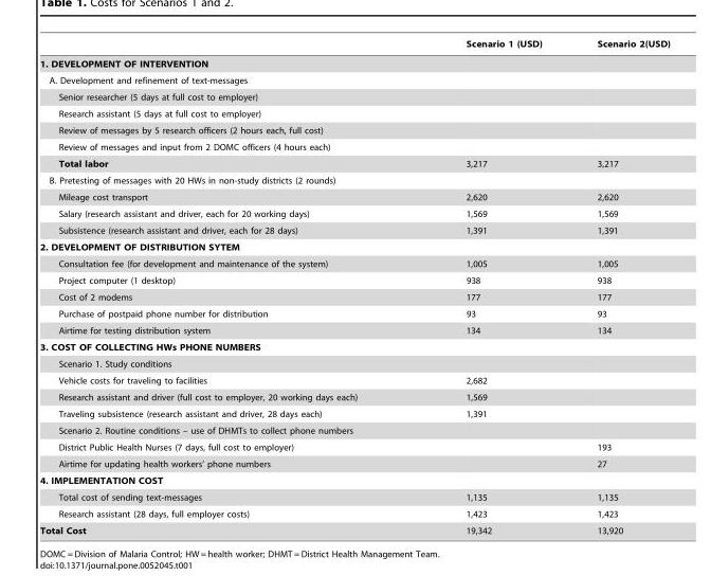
<table><thead><tr><td></td><td>Scenario 1 (USD)</td><td>Scenario 2(USD)</td></tr></thead><tbody><tr><td colspan="3">1. DEVELOPMENT OF INTERVENTION</td></tr><tr><td colspan="3">A. Development and refinement of text-messages</td></tr><tr><td colspan="3">Senior researcher (5 days at full cost to employer)</td></tr><tr><td colspan="3">Research assistant (5 days at full cost to employer)</td></tr><tr><td colspan="3">Review of messages by 5 research officers (2 hours each, full cost)</td></tr><tr><td colspan="3">Review of messages and input from 2 DOMC officers (4 hours each)</td></tr><tr><td>Total labor</td><td>3,217</td><td>3,217</td></tr><tr><td colspan="3">B. Pretesting of messages with 20 HWs in non-study districts (2 rounds)</td></tr><tr><td>Mileage cost transport</td><td>2,620</td><td>2,620</td></tr><tr><td>Salary (research assistant and driver, each for 20 working days)</td><td>1,569</td><td>1,569</td></tr><tr><td>Subsistence (research assistant and driver, each for 28 days)</td><td>1,391</td><td>1,391</td></tr><tr><td colspan="3">2. DEVELOPMENT OF DISTRIBUTION SYTEM</td></tr><tr><td>Consultation fee (for development and maintenance of the system)</td><td>1,005</td><td>1,005</td></tr><tr><td>Project computer (1 desktop)</td><td>938</td><td>938</td></tr><tr><td>Cost of 2 modems</td><td>177</td><td>177</td></tr><tr><td>Purchase of postpaid phone number for distribution</td><td>93</td><td>93</td></tr><tr><td>Airtime for testing distribution system</td><td>134</td><td>134</td></tr><tr><td colspan="3">3. COST OF COLLECTING HWs PHONE NUMBERS</td></tr><tr><td colspan="3">Scenario 1. Study conditions</td></tr><tr><td>Vehicle costs for traveling to facilities</td><td>2,682</td><td></td></tr><tr><td>Research assistant and driver (full cost to employer, 20 working days each)</td><td>1,569</td><td></td></tr><tr><td>Traveling subsistence (research assistant and driver, 28 days each)</td><td>1,391</td><td></td></tr><tr><td colspan="3">Scenario 2. Routine conditions – use of DHMTs to collect phone numbers</td></tr><tr><td>District Public Health Nurses (7 days, full cost to employer)</td><td></td><td>193</td></tr><tr><td>Airtime for updating health workers’ phone numbers</td><td></td><td>27</td></tr><tr><td colspan="3">4. IMPLEMENTATION COST</td></tr><tr><td>Total cost of sending text-messages</td><td>1,135</td><td>1,135</td></tr><tr><td>Research assistant (28 days, full employer costs)</td><td>1,423</td><td>1,423</td></tr><tr><td>Total Cost</td><td>19,342</td><td>13,920</td></tr></tbody></table>